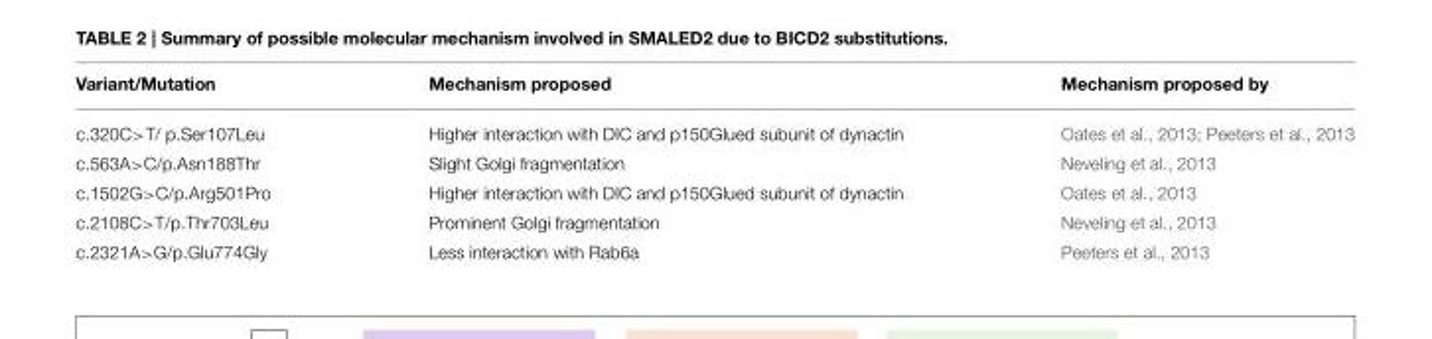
<table><thead><tr><td>Variant/Mutation</td><td>Mechanism proposed</td><td>Mechanism proposed by</td></tr></thead><tbody><tr><td>c.320C&gt;T/ p.Ser107Leu</td><td>Higher interaction with DIC and p150Glued subunit of dynactin</td><td>Oates et al., 2013; Peeters et al., 2013</td></tr><tr><td>c.563A&gt;C/p.Asn188Thr</td><td>Slight Golgi fragmentation</td><td>Neveling et al., 2013</td></tr><tr><td>c.1502G&gt;C/p.Arg501Pro</td><td>Higher interaction with DIC and p150Glued subunit of dynactin</td><td>Oates et al., 2013</td></tr><tr><td>c.2108C&gt;T/p.Thr703Leu</td><td>Prominent Golgi fragmentation</td><td>Neveling et al., 2013</td></tr><tr><td>c.2321A&gt;G/p.Glu774Gly</td><td>Less interaction with Rab6a</td><td>Peeters et al., 2013</td></tr></tbody></table>